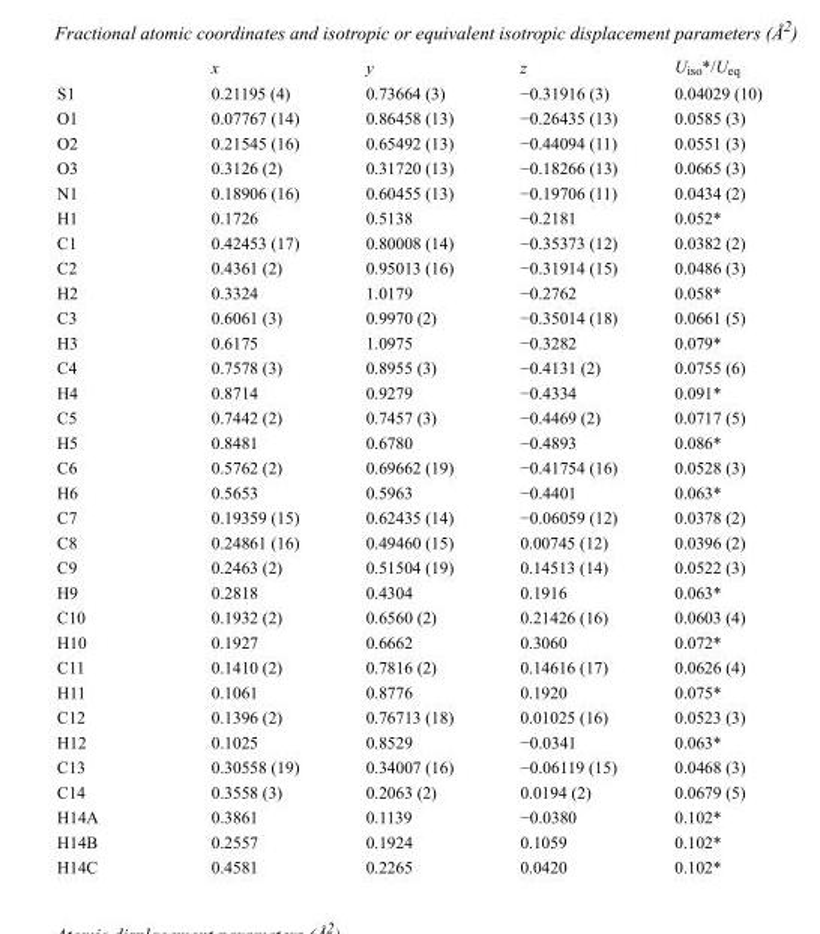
<table><thead><tr><td></td><td>x</td><td>y</td><td>z</td><td>U<sub>iso</sub>*/U<sub>eq</sub></td></tr></thead><tbody><tr><td>S1</td><td>0.21195 (4)</td><td>0.73664 (3)</td><td>−0.31916 (3)</td><td>0.04029 (10)</td></tr><tr><td>O1</td><td>0.07767 (14)</td><td>0.86458 (13)</td><td>−0.26435 (13)</td><td>0.0585 (3)</td></tr><tr><td>O2</td><td>0.21545 (16)</td><td>0.65492 (13)</td><td>−0.44094 (11)</td><td>0.0551 (3)</td></tr><tr><td>O3</td><td>0.3126 (2)</td><td>0.31720 (13)</td><td>−0.18266 (13)</td><td>0.0665 (3)</td></tr><tr><td>N1</td><td>0.18906 (16)</td><td>0.60455 (13)</td><td>−0.19706 (11)</td><td>0.0434 (2)</td></tr><tr><td>H1</td><td>0.1726</td><td>0.5138</td><td>−0.2181</td><td>0.052*</td></tr><tr><td>C1</td><td>0.42453 (17)</td><td>0.80008 (14)</td><td>−0.35373 (12)</td><td>0.0382 (2)</td></tr><tr><td>C2</td><td>0.4361 (2)</td><td>0.95013 (16)</td><td>−0.31914 (15)</td><td>0.0486 (3)</td></tr><tr><td>H2</td><td>0.3324</td><td>1.0179</td><td>−0.2762</td><td>0.058*</td></tr><tr><td>C3</td><td>0.6061 (3)</td><td>0.9970 (2)</td><td>−0.35014 (18)</td><td>0.0661 (5)</td></tr><tr><td>H3</td><td>0.6175</td><td>1.0975</td><td>−0.3282</td><td>0.079*</td></tr><tr><td>C4</td><td>0.7578 (3)</td><td>0.8955 (3)</td><td>−0.4131 (2)</td><td>0.0755 (6)</td></tr><tr><td>H4</td><td>0.8714</td><td>0.9279</td><td>−0.4334</td><td>0.091*</td></tr><tr><td>C5</td><td>0.7442 (2)</td><td>0.7457 (3)</td><td>−0.4469 (2)</td><td>0.0717 (5)</td></tr><tr><td>H5</td><td>0.8481</td><td>0.6780</td><td>−0.4893</td><td>0.086*</td></tr><tr><td>C6</td><td>0.5762 (2)</td><td>0.69662 (19)</td><td>−0.41754 (16)</td><td>0.0528 (3)</td></tr><tr><td>H6</td><td>0.5653</td><td>0.5963</td><td>−0.4401</td><td>0.063*</td></tr><tr><td>C7</td><td>0.19359 (15)</td><td>0.62435 (14)</td><td>−0.06059 (12)</td><td>0.0378 (2)</td></tr><tr><td>C8</td><td>0.24861 (16)</td><td>0.49460 (15)</td><td>0.00745 (12)</td><td>0.0396 (2)</td></tr><tr><td>C9</td><td>0.2463 (2)</td><td>0.51504 (19)</td><td>0.14513 (14)</td><td>0.0522 (3)</td></tr><tr><td>H9</td><td>0.2818</td><td>0.4304</td><td>0.1916</td><td>0.063*</td></tr><tr><td>C10</td><td>0.1932 (2)</td><td>0.6560 (2)</td><td>0.21426 (16)</td><td>0.0603 (4)</td></tr><tr><td>H10</td><td>0.1927</td><td>0.6662</td><td>0.3060</td><td>0.072*</td></tr><tr><td>C11</td><td>0.1410 (2)</td><td>0.7816 (2)</td><td>0.14616 (17)</td><td>0.0626 (4)</td></tr><tr><td>H11</td><td>0.1061</td><td>0.8776</td><td>0.1920</td><td>0.075*</td></tr><tr><td>C12</td><td>0.1396 (2)</td><td>0.76713 (18)</td><td>0.01025 (16)</td><td>0.0523 (3)</td></tr><tr><td>H12</td><td>0.1025</td><td>0.8529</td><td>−0.0341</td><td>0.063*</td></tr><tr><td>C13</td><td>0.30558 (19)</td><td>0.34007 (16)</td><td>−0.06119 (15)</td><td>0.0468 (3)</td></tr><tr><td>C14</td><td>0.3558 (3)</td><td>0.2063 (2)</td><td>0.0194 (2)</td><td>0.0679 (5)</td></tr><tr><td>H14A</td><td>0.3861</td><td>0.1139</td><td>−0.0380</td><td>0.102*</td></tr><tr><td>H14B</td><td>0.2557</td><td>0.1924</td><td>0.1059</td><td>0.102*</td></tr><tr><td>H14C</td><td>0.4581</td><td>0.2265</td><td>0.0420</td><td>0.102*</td></tr></tbody></table>